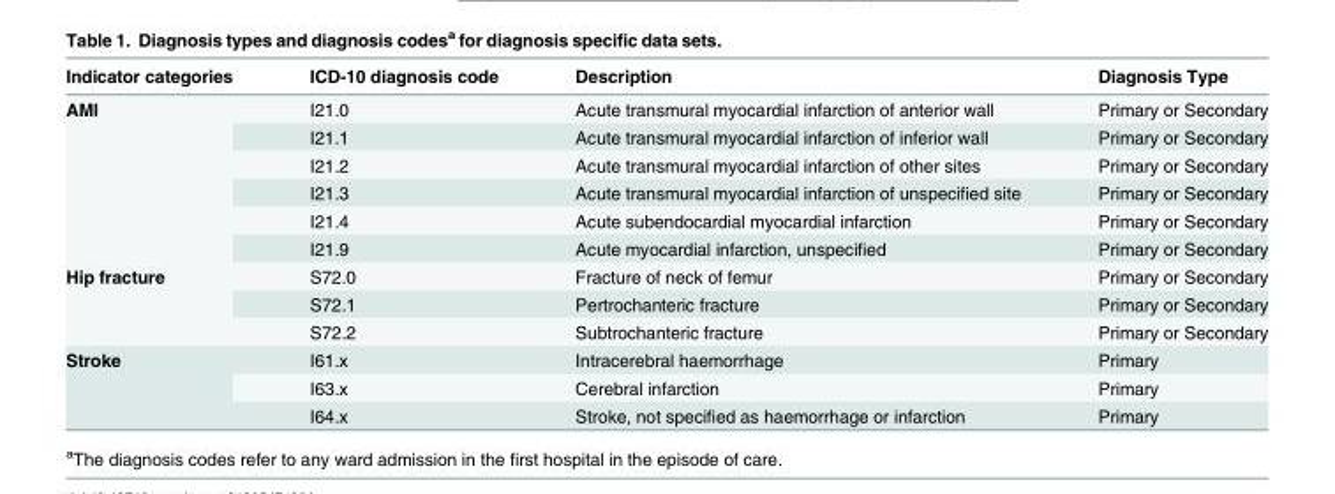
<table><thead><tr><td>Indicator categories</td><td>ICD-10 diagnosis code</td><td>Description</td><td>Diagnosis Type</td></tr></thead><tbody><tr><td rowspan="6">AMI</td><td>I21.0</td><td>Acute transmural myocardial infarction of anterior wall</td><td>Primary or Secondary</td></tr><tr><td>I21.1</td><td>Acute transmural myocardial infarction of inferior wall</td><td>Primary or Secondary</td></tr><tr><td>I21.2</td><td>Acute transmural myocardial infarction of other sites</td><td>Primary or Secondary</td></tr><tr><td>I21.3</td><td>Acute transmural myocardial infarction of unspecified site</td><td>Primary or Secondary</td></tr><tr><td>I21.4</td><td>Acute subendocardial myocardial infarction</td><td>Primary or Secondary</td></tr><tr><td>I21.9</td><td>Acute myocardial infarction, unspecified</td><td>Primary or Secondary</td></tr><tr><td rowspan="3">Hip fracture</td><td>S72.0</td><td>Fracture of neck of femur</td><td>Primary or Secondary</td></tr><tr><td>S72.1</td><td>Pertrochanteric fracture</td><td>Primary or Secondary</td></tr><tr><td>S72.2</td><td>Subtrochanteric fracture</td><td>Primary or Secondary</td></tr><tr><td rowspan="3">Stroke</td><td>I61.x</td><td>Intracerebral haemorrhage</td><td>Primary</td></tr><tr><td>I63.x</td><td>Cerebral infarction</td><td>Primary</td></tr><tr><td>I64.x</td><td>Stroke, not specified as haemorrhage or infarction</td><td>Primary</td></tr></tbody></table>